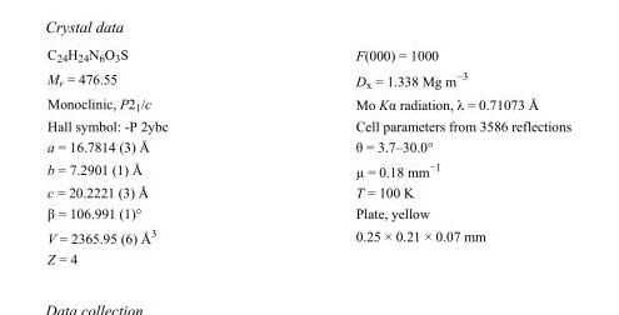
<table><tbody><tr><td>C<sub>24</sub>H<sub>24</sub>N<sub>6</sub>O<sub>3</sub>S</td><td>F(000) = 1000</td></tr><tr><td>M<sub>r</sub> = 476.55</td><td>D<sub>x</sub> = 1.338 Mg m<sup>−3</sup></td></tr><tr><td>Monoclinic, P2<sub>1</sub>/c</td><td>Mo Kα radiation, λ = 0.71073 Å</td></tr><tr><td>Hall symbol: -P 2ybc</td><td>Cell parameters from 3586 reflections</td></tr><tr><td>a = 16.7814 (3) Å</td><td>θ = 3.7–30.0°</td></tr><tr><td>b = 7.2901 (1) Å</td><td>µ = 0.18 mm<sup>−1</sup></td></tr><tr><td>c = 20.2221 (3) Å</td><td>T = 100 K</td></tr><tr><td>β = 106.991 (1)°</td><td>Plate, yellow</td></tr><tr><td>V = 2365.95 (6) Å<sup>3</sup></td><td>0.25 × 0.21 × 0.07 mm</td></tr><tr><td>Z = 4</td><td></td></tr></tbody></table>